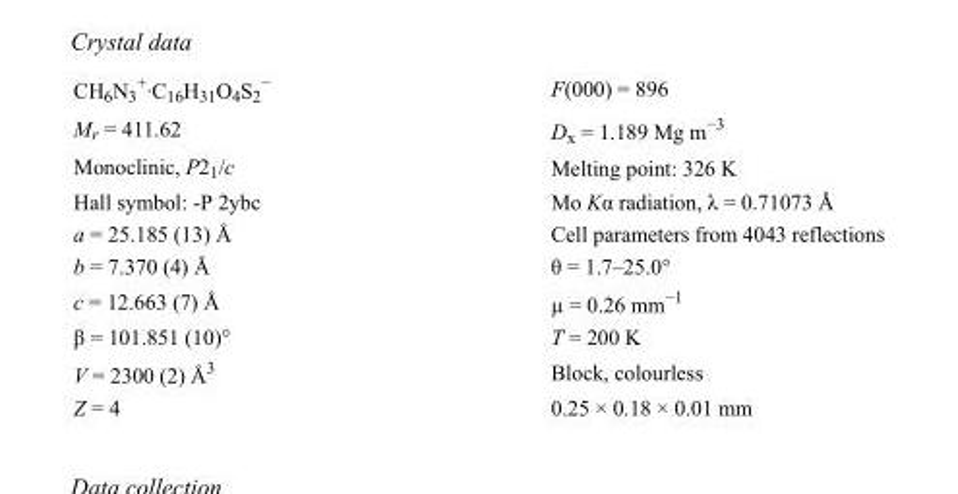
<table><tbody><tr><td>CH<sub>6</sub>N<sub>3</sub> <sup>+</sup>·C<sub>16</sub>H<sub>31</sub>O<sub>4</sub>S<sub>2</sub> <sup>−</sup></td><td>F(000) = 896</td></tr><tr><td>M<sub>r</sub> = 411.62</td><td>D<sub>x</sub> = 1.189 Mg m<sup>−3</sup></td></tr><tr><td>Monoclinic, P2<sub>1</sub>/c</td><td>Melting point: 326 K</td></tr><tr><td>Hall symbol: -P 2ybc</td><td>Mo Kα radiation, λ = 0.71073 Å</td></tr><tr><td>a = 25.185 (13) Å</td><td>Cell parameters from 4043 reflections</td></tr><tr><td>b = 7.370 (4) Å</td><td>θ = 1.7–25.0°</td></tr><tr><td>c = 12.663 (7) Å</td><td>µ = 0.26 mm<sup>−1</sup></td></tr><tr><td>β = 101.851 (10)°</td><td>T = 200 K</td></tr><tr><td>V = 2300 (2) Å<sup>3</sup></td><td>Block, colourless</td></tr><tr><td>Z = 4</td><td>0.25 × 0.18 × 0.01 mm</td></tr></tbody></table>